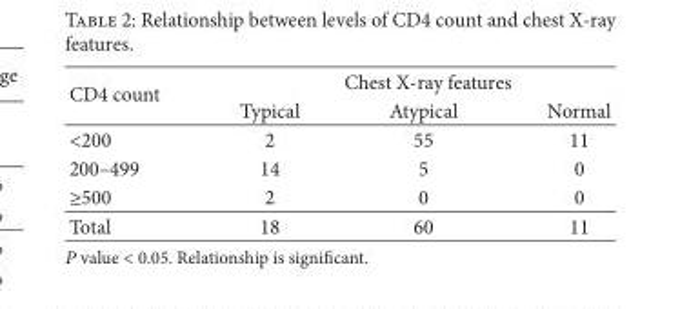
<table><thead><tr><td rowspan="2">CD4 count</td><td colspan="3">Chest X-ray features</td></tr><tr><td>Typical</td><td>Atypical</td><td>Normal</td></tr></thead><tbody><tr><td>&lt;200</td><td>2</td><td>55</td><td>11</td></tr><tr><td>200–499</td><td>14</td><td>5</td><td>0</td></tr><tr><td>≥500</td><td>2</td><td>0</td><td>0</td></tr><tr><td>Total</td><td>18</td><td>60</td><td>11</td></tr></tbody></table>